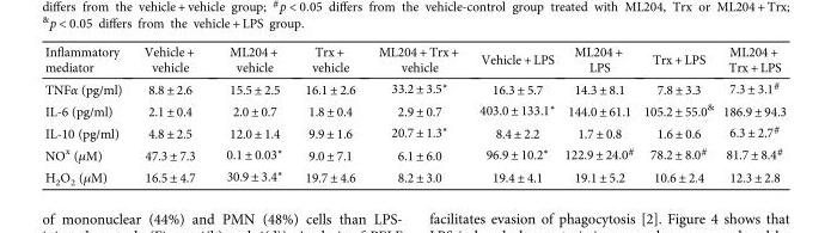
<table><thead><tr><td>Inflammatory mediator</td><td>Vehicle + vehicle</td><td>ML204 + vehicle</td><td>Trx + vehicle</td><td>ML204 + Trx + vehicle</td><td>Vehicle + LPS</td><td>ML204 + LPS</td><td>Trx + LPS</td><td>ML204 + Trx + LPS</td></tr></thead><tbody><tr><td>TNFα (pg/ml)</td><td>8.8 ± 2.6</td><td>15.5 ± 2.5</td><td>16.1 ± 2.6</td><td>33.2 ± 3.5∗</td><td>16.3 ± 5.7</td><td>14.3 ± 8.1</td><td>7.8 ± 3.3</td><td>7.3 ± 3.1<sup>#</sup></td></tr><tr><td>IL-6 (pg/ml)</td><td>2.1 ± 0.4</td><td>2.0 ± 0.7</td><td>1.8 ± 0.4</td><td>2.9 ± 0.7</td><td>403.0 ± 133.1∗</td><td>144.0 ± 61.1</td><td>105.2 ± 55.0<sup>&amp;</sup></td><td>186.9 ± 94.3</td></tr><tr><td>IL-10 (pg/ml)</td><td>4.8 ± 2.5</td><td>12.0 ± 1.4</td><td>9.9 ± 1.6</td><td>20.7 ± 1.3∗</td><td>8.4 ± 2.2</td><td>1.7 ± 0.8</td><td>1.6 ± 0.6</td><td>6.3 ± 2.7<sup>#</sup></td></tr><tr><td>NO<sup>x</sup> (μM)</td><td>47.3 ± 7.3</td><td>0.1 ± 0.03∗</td><td>9.0 ± 7.1</td><td>6.1 ± 6.0</td><td>96.9 ± 10.2∗</td><td>122.9 ± 24.0<sup>#</sup></td><td>78.2 ± 8.0<sup>#</sup></td><td>81.7 ± 8.4<sup>#</sup></td></tr><tr><td>H<sub>2</sub>O<sub>2</sub> (μM)</td><td>16.5 ± 4.7</td><td>30.9 ± 3.4∗</td><td>19.7 ± 4.6</td><td>8.2 ± 3.0</td><td>19.4 ± 4.1</td><td>19.1 ± 5.2</td><td>10.6 ± 2.4</td><td>12.3 ± 2.8</td></tr></tbody></table>